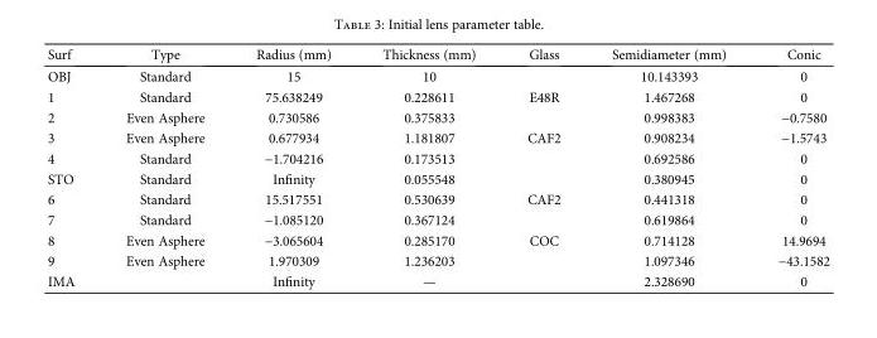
<table><thead><tr><td>Surf</td><td>Type</td><td>Radius (mm)</td><td>Thickness (mm)</td><td>Glass</td><td>Semidiameter (mm)</td><td>Conic</td></tr></thead><tbody><tr><td>OBJ</td><td>Standard</td><td>15</td><td>10</td><td></td><td>10.143393</td><td>0</td></tr><tr><td>1</td><td>Standard</td><td>75.638249</td><td>0.228611</td><td>E48R</td><td>1.467268</td><td>0</td></tr><tr><td>2</td><td>Even Asphere</td><td>0.730586</td><td>0.375833</td><td></td><td>0.998383</td><td>−0.7580</td></tr><tr><td>3</td><td>Even Asphere</td><td>0.677934</td><td>1.181807</td><td>CAF2</td><td>0.908234</td><td>−1.5743</td></tr><tr><td>4</td><td>Standard</td><td>−1.704216</td><td>0.173513</td><td></td><td>0.692586</td><td>0</td></tr><tr><td>STO</td><td>Standard</td><td>Infinity</td><td>0.055548</td><td></td><td>0.380945</td><td>0</td></tr><tr><td>6</td><td>Standard</td><td>15.517551</td><td>0.530639</td><td>CAF2</td><td>0.441318</td><td>0</td></tr><tr><td>7</td><td>Standard</td><td>−1.085120</td><td>0.367124</td><td></td><td>0.619864</td><td>0</td></tr><tr><td>8</td><td>Even Asphere</td><td>−3.065604</td><td>0.285170</td><td>COC</td><td>0.714128</td><td>14.9694</td></tr><tr><td>9</td><td>Even Asphere</td><td>1.970309</td><td>1.236203</td><td></td><td>1.097346</td><td>−43.1582</td></tr><tr><td>IMA</td><td></td><td>Infinity</td><td>—</td><td></td><td>2.328690</td><td>0</td></tr></tbody></table>